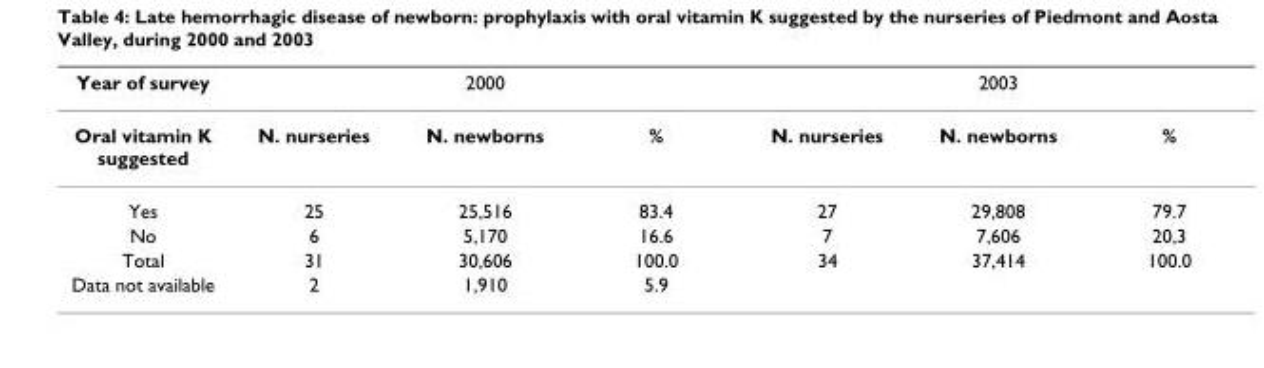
<table><thead><tr><td rowspan="2">Year of survey Oral vitamin K suggested</td><td colspan="3">2000</td><td colspan="3">2003</td></tr><tr><td>N. nurseries</td><td>N. newborns</td><td>%</td><td>N. nurseries</td><td>N. newborns</td><td>%</td></tr></thead><tbody><tr><td>Yes</td><td>25</td><td>25,516</td><td>83.4</td><td>27</td><td>29,808</td><td>79.7</td></tr><tr><td>No</td><td>6</td><td>5,170</td><td>16.6</td><td>7</td><td>7,606</td><td>20,3</td></tr><tr><td>Total</td><td>31</td><td>30,606</td><td>100.0</td><td>34</td><td>37,414</td><td>100.0</td></tr><tr><td>Data not available</td><td>2</td><td>1,910</td><td>5.9</td><td></td><td></td><td></td></tr></tbody></table>